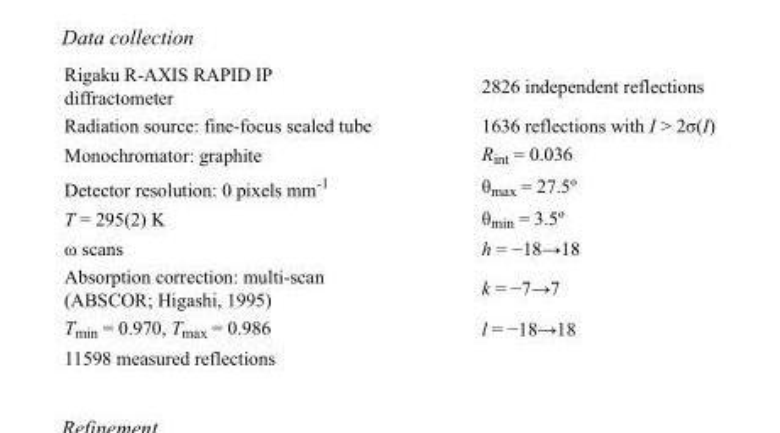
<table><tbody><tr><td>Rigaku R-AXIS RAPID IP diffractometer</td><td>2826 independent reflections</td></tr><tr><td>Radiation source: fine-focus sealed tube</td><td>1636 reflections with I &gt; 2σ(I)</td></tr><tr><td>Monochromator: graphite</td><td>R<sub>int</sub> = 0.036</td></tr><tr><td>Detector resolution: 0 pixels mm<sup>-1</sup></td><td>θ<sub>max</sub> = 27.5º</td></tr><tr><td>T = 295(2) K</td><td>θ<sub>min</sub> = 3.5º</td></tr><tr><td>ω scans</td><td>h = −18→18</td></tr><tr><td>Absorption correction: multi-scan (ABSCOR; Higashi, 1995)</td><td>k = −7→7</td></tr><tr><td>T<sub>min</sub> = 0.970, T<sub>max</sub> = 0.986</td><td>l = −18→18</td></tr><tr><td>11598 measured reflections</td><td></td></tr></tbody></table>